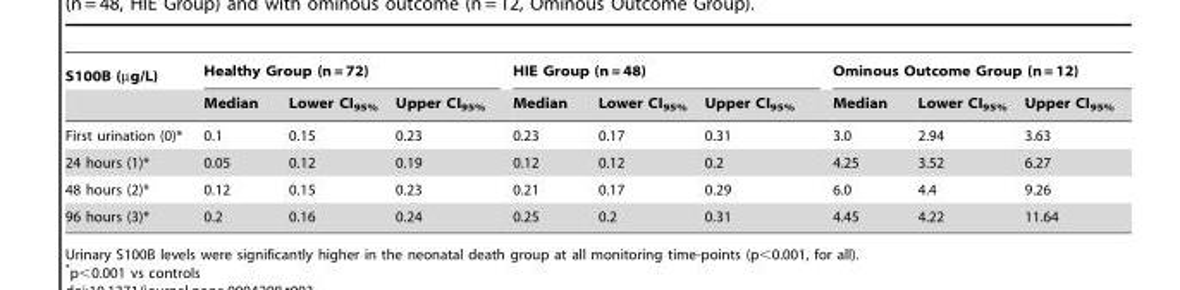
<table><thead><tr><td rowspan="2">S100B (µg/L)</td><td colspan="3">Healthy Group (n = 72)</td><td colspan="3">HIE Group (n = 48)</td><td colspan="3">Ominous Outcome Group (n = 12)</td></tr><tr><td>Median</td><td>Lower CI<sub>95%</sub></td><td>Upper CI<sub>95%</sub></td><td>Median</td><td>Lower CI<sub>95%</sub></td><td>Upper CI<sub>95%</sub></td><td>Median</td><td>Lower CI<sub>95%</sub></td><td>Upper CI<sub>95%</sub></td></tr></thead><tbody><tr><td>First urination (0)*</td><td>0.1</td><td>0.15</td><td>0.23</td><td>0.23</td><td>0.17</td><td>0.31</td><td>3.0</td><td>2.94</td><td>3.63</td></tr><tr><td>24 hours (1)*</td><td>0.05</td><td>0.12</td><td>0.19</td><td>0.12</td><td>0.12</td><td>0.2</td><td>4.25</td><td>3.52</td><td>6.27</td></tr><tr><td>48 hours (2)*</td><td>0.12</td><td>0.15</td><td>0.23</td><td>0.21</td><td>0.17</td><td>0.29</td><td>6.0</td><td>4.4</td><td>9.26</td></tr><tr><td>96 hours (3)*</td><td>0.2</td><td>0.16</td><td>0.24</td><td>0.25</td><td>0.2</td><td>0.31</td><td>4.45</td><td>4.22</td><td>11.64</td></tr></tbody></table>